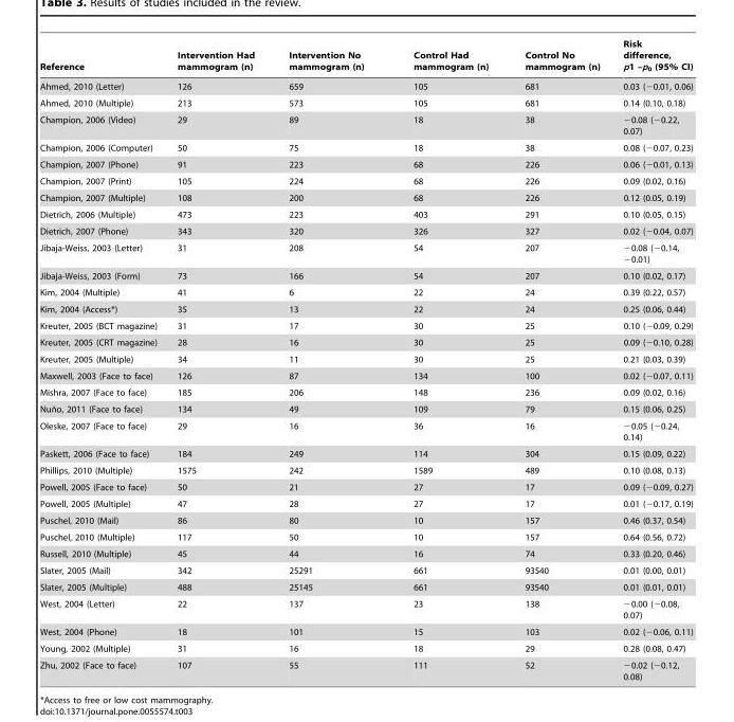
<table><thead><tr><td>Reference</td><td>Intervention Had mammogram (n)</td><td>Intervention No mammogram (n)</td><td>Control Had mammogram (n)</td><td>Control No mammogram (n)</td><td>Risk difference, p1 –p<sub>0</sub> (95% CI)</td></tr></thead><tbody><tr><td>Ahmed, 2010 (Letter)</td><td>126</td><td>659</td><td>105</td><td>681</td><td>0.03 (−0.01, 0.06)</td></tr><tr><td>Ahmed, 2010 (Multiple)</td><td>213</td><td>573</td><td>105</td><td>681</td><td>0.14 (0.10, 0.18)</td></tr><tr><td>Champion, 2006 (Video)</td><td>29</td><td>89</td><td>18</td><td>38</td><td>−0.08 (−0.22, 0.07)</td></tr><tr><td>Champion, 2006 (Computer)</td><td>50</td><td>75</td><td>18</td><td>38</td><td>0.08 (−0.07, 0.23)</td></tr><tr><td>Champion, 2007 (Phone)</td><td>91</td><td>223</td><td>68</td><td>226</td><td>0.06 (−0.01, 0.13)</td></tr><tr><td>Champion, 2007 (Print)</td><td>105</td><td>224</td><td>68</td><td>226</td><td>0.09 (0.02, 0.16)</td></tr><tr><td>Champion, 2007 (Multiple)</td><td>108</td><td>200</td><td>68</td><td>226</td><td>0.12 (0.05, 0.19)</td></tr><tr><td>Dietrich, 2006 (Multiple)</td><td>473</td><td>223</td><td>403</td><td>291</td><td>0.10 (0.05, 0.15)</td></tr><tr><td>Dietrich, 2007 (Phone)</td><td>343</td><td>320</td><td>326</td><td>327</td><td>0.02 (−0.04, 0.07)</td></tr><tr><td>Jibaja-Weiss, 2003 (Letter)</td><td>31</td><td>208</td><td>54</td><td>207</td><td>−0.08 (−0.14, −0.01)</td></tr><tr><td>Jibaja-Weiss, 2003 (Form)</td><td>73</td><td>166</td><td>54</td><td>207</td><td>0.10 (0.02, 0.17)</td></tr><tr><td>Kim, 2004 (Multiple)</td><td>41</td><td>6</td><td>22</td><td>24</td><td>0.39 (0.22, 0.57)</td></tr><tr><td>Kim, 2004 (Access*)</td><td>35</td><td>13</td><td>22</td><td>24</td><td>0.25 (0.06, 0.44)</td></tr><tr><td>Kreuter, 2005 (BCT magazine)</td><td>31</td><td>17</td><td>30</td><td>25</td><td>0.10 (−0.09, 0.29)</td></tr><tr><td>Kreuter, 2005 (CRT magazine)</td><td>28</td><td>16</td><td>30</td><td>25</td><td>0.09 (−0.10, 0.28)</td></tr><tr><td>Kreuter, 2005 (Multiple)</td><td>34</td><td>11</td><td>30</td><td>25</td><td>0.21 (0.03, 0.39)</td></tr><tr><td>Maxwell, 2003 (Face to face)</td><td>126</td><td>87</td><td>134</td><td>100</td><td>0.02 (−0.07, 0.11)</td></tr><tr><td>Mishra, 2007 (Face to face)</td><td>185</td><td>206</td><td>148</td><td>236</td><td>0.09 (0.02, 0.16)</td></tr><tr><td>Nun˜o, 2011 (Face to face)</td><td>134</td><td>49</td><td>109</td><td>79</td><td>0.15 (0.06, 0.25)</td></tr><tr><td>Oleske, 2007 (Face to face)</td><td>29</td><td>16</td><td>36</td><td>16</td><td>−0.05 (−0.24, 0.14)</td></tr><tr><td>Paskett, 2006 (Face to face)</td><td>184</td><td>249</td><td>114</td><td>304</td><td>0.15 (0.09, 0.22)</td></tr><tr><td>Phillips, 2010 (Multiple)</td><td>1575</td><td>242</td><td>1589</td><td>489</td><td>0.10 (0.08, 0.13)</td></tr><tr><td>Powell, 2005 (Face to face)</td><td>50</td><td>21</td><td>27</td><td>17</td><td>0.09 (−0.09, 0.27)</td></tr><tr><td>Powell, 2005 (Multiple)</td><td>47</td><td>28</td><td>27</td><td>17</td><td>0.01 (−0.17, 0.19)</td></tr><tr><td>Puschel, 2010 (Mail)</td><td>86</td><td>80</td><td>10</td><td>157</td><td>0.46 (0.37, 0.54)</td></tr><tr><td>Puschel, 2010 (Multiple)</td><td>117</td><td>50</td><td>10</td><td>157</td><td>0.64 (0.56, 0.72)</td></tr><tr><td>Russell, 2010 (Multiple)</td><td>45</td><td>44</td><td>16</td><td>74</td><td>0.33 (0.20, 0.46)</td></tr><tr><td>Slater, 2005 (Mail)</td><td>342</td><td>25291</td><td>661</td><td>93540</td><td>0.01 (0.00, 0.01)</td></tr><tr><td>Slater, 2005 (Multiple)</td><td>488</td><td>25145</td><td>661</td><td>93540</td><td>0.01 (0.01, 0.01)</td></tr><tr><td>West, 2004 (Letter)</td><td>22</td><td>137</td><td>23</td><td>138</td><td>−0.00 (−0.08, 0.07)</td></tr><tr><td>West, 2004 (Phone)</td><td>18</td><td>101</td><td>15</td><td>103</td><td>0.02 (−0.06, 0.11)</td></tr><tr><td>Young, 2002 (Multiple)</td><td>31</td><td>16</td><td>18</td><td>29</td><td>0.28 (0.08, 0.47)</td></tr><tr><td>Zhu, 2002 (Face to face)</td><td>107</td><td>55</td><td>111</td><td>52</td><td>−0.02 (−0.12, 0.08)</td></tr></tbody></table>